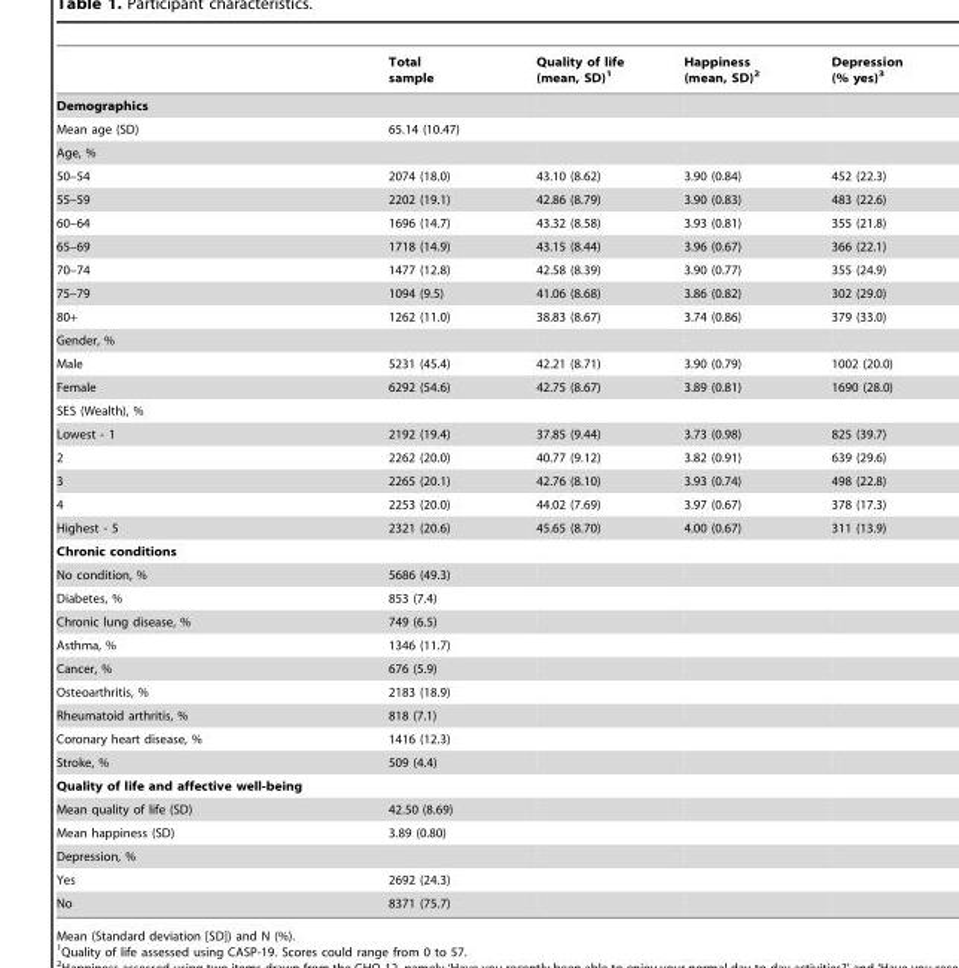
<table><thead><tr><td></td><td>Total sample</td><td>Quality of life (mean, SD)<sup>1</sup></td><td>Happiness (mean, SD)<sup>2</sup></td><td>Depression (% yes)<sup>3</sup></td></tr></thead><tbody><tr><td colspan="5">Demographics</td></tr><tr><td>Mean age (SD)</td><td>65.14 (10.47)</td><td></td><td></td><td></td></tr><tr><td colspan="5">Age, %</td></tr><tr><td>50–54</td><td>2074 (18.0)</td><td>43.10 (8.62)</td><td>3.90 (0.84)</td><td>452 (22.3)</td></tr><tr><td>55–59</td><td>2202 (19.1)</td><td>42.86 (8.79)</td><td>3.90 (0.83)</td><td>483 (22.6)</td></tr><tr><td>60–64</td><td>1696 (14.7)</td><td>43.32 (8.58)</td><td>3.93 (0.81)</td><td>355 (21.8)</td></tr><tr><td>65–69</td><td>1718 (14.9)</td><td>43.15 (8.44)</td><td>3.96 (0.67)</td><td>366 (22.1)</td></tr><tr><td>70–74</td><td>1477 (12.8)</td><td>42.58 (8.39)</td><td>3.90 (0.77)</td><td>355 (24.9)</td></tr><tr><td>75–79</td><td>1094 (9.5)</td><td>41.06 (8.68)</td><td>3.86 (0.82)</td><td>302 (29.0)</td></tr><tr><td>80+</td><td>1262 (11.0)</td><td>38.83 (8.67)</td><td>3.74 (0.86)</td><td>379 (33.0)</td></tr><tr><td colspan="5">Gender, %</td></tr><tr><td>Male</td><td>5231 (45.4)</td><td>42.21 (8.71)</td><td>3.90 (0.79)</td><td>1002 (20.0)</td></tr><tr><td>Female</td><td>6292 (54.6)</td><td>42.75 (8.67)</td><td>3.89 (0.81)</td><td>1690 (28.0)</td></tr><tr><td colspan="5">SES (Wealth), %</td></tr><tr><td>Lowest - 1</td><td>2192 (19.4)</td><td>37.85 (9.44)</td><td>3.73 (0.98)</td><td>825 (39.7)</td></tr><tr><td>2</td><td>2262 (20.0)</td><td>40.77 (9.12)</td><td>3.82 (0.91)</td><td>639 (29.6)</td></tr><tr><td>3</td><td>2265 (20.1)</td><td>42.76 (8.10)</td><td>3.93 (0.74)</td><td>498 (22.8)</td></tr><tr><td>4</td><td>2253 (20.0)</td><td>44.02 (7.69)</td><td>3.97 (0.67)</td><td>378 (17.3)</td></tr><tr><td>Highest - 5</td><td>2321 (20.6)</td><td>45.65 (8.70)</td><td>4.00 (0.67)</td><td>311 (13.9)</td></tr><tr><td colspan="5">Chronic conditions</td></tr><tr><td>No condition, %</td><td>5686 (49.3)</td><td></td><td></td><td></td></tr><tr><td>Diabetes, %</td><td>853 (7.4)</td><td></td><td></td><td></td></tr><tr><td>Chronic lung disease, %</td><td>749 (6.5)</td><td></td><td></td><td></td></tr><tr><td>Asthma, %</td><td>1346 (11.7)</td><td></td><td></td><td></td></tr><tr><td>Cancer, %</td><td>676 (5.9)</td><td></td><td></td><td></td></tr><tr><td>Osteoarthritis, %</td><td>2183 (18.9)</td><td></td><td></td><td></td></tr><tr><td>Rheumatoid arthritis, %</td><td>818 (7.1)</td><td></td><td></td><td></td></tr><tr><td>Coronary heart disease, %</td><td>1416 (12.3)</td><td></td><td></td><td></td></tr><tr><td>Stroke, %</td><td>509 (4.4)</td><td></td><td></td><td></td></tr><tr><td colspan="5">Quality of life and affective well-being</td></tr><tr><td>Mean quality of life (SD)</td><td>42.50 (8.69)</td><td></td><td></td><td></td></tr><tr><td>Mean happiness (SD)</td><td>3.89 (0.80)</td><td></td><td></td><td></td></tr><tr><td colspan="5">Depression, %</td></tr><tr><td>Yes</td><td>2692 (24.3)</td><td></td><td></td><td></td></tr><tr><td>No</td><td>8371 (75.7)</td><td></td><td></td><td></td></tr></tbody></table>